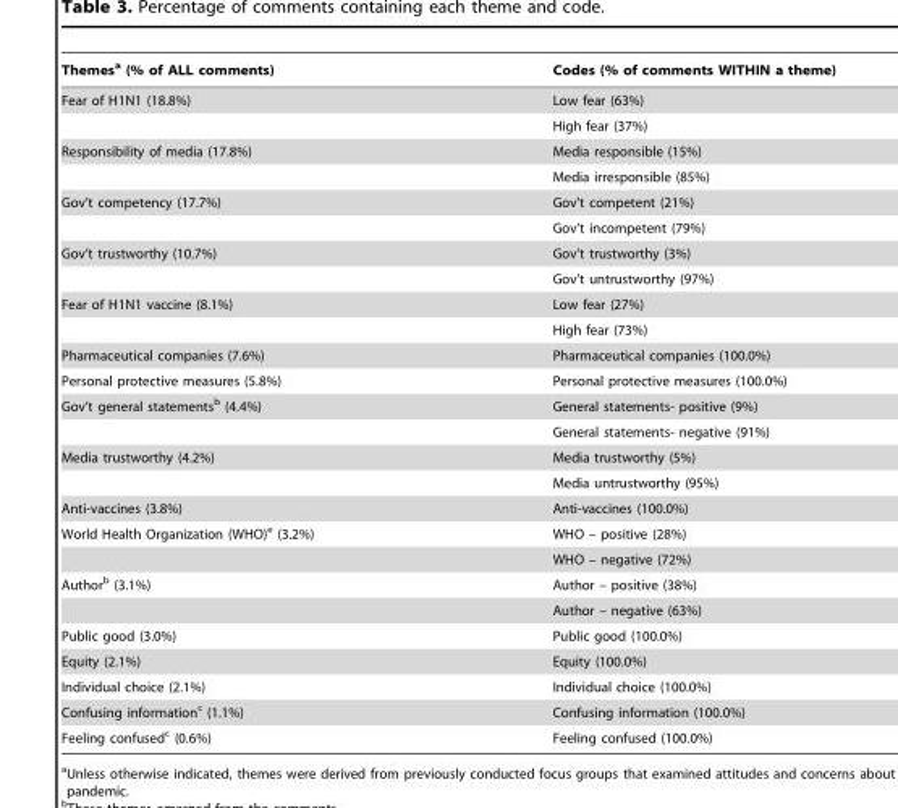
<table><thead><tr><td>Themes<sup>a</sup> (% of ALL comments)</td><td>Codes (% of comments WITHIN a theme)</td></tr></thead><tbody><tr><td rowspan="2">Fear of H1N1 (18.8%)</td><td>Low fear (63%)</td></tr><tr><td>High fear (37%)</td></tr><tr><td rowspan="2">Responsibility of media (17.8%)</td><td>Media responsible (15%)</td></tr><tr><td>Media irresponsible (85%)</td></tr><tr><td rowspan="2">Gov’t competency (17.7%)</td><td>Gov’t competent (21%)</td></tr><tr><td>Gov’t incompetent (79%)</td></tr><tr><td rowspan="2">Gov’t trustworthy (10.7%)</td><td>Gov’t trustworthy (3%)</td></tr><tr><td>Gov’t untrustworthy (97%)</td></tr><tr><td rowspan="2">Fear of H1N1 vaccine (8.1%)</td><td>Low fear (27%)</td></tr><tr><td>High fear (73%)</td></tr><tr><td>Pharmaceutical companies (7.6%)</td><td>Pharmaceutical companies (100.0%)</td></tr><tr><td>Personal protective measures (5.8%)</td><td>Personal protective measures (100.0%)</td></tr><tr><td rowspan="2">Gov’t general statements<sup>b</sup> (4.4%)</td><td>General statements- positive (9%)</td></tr><tr><td>General statements- negative (91%)</td></tr><tr><td rowspan="2">Media trustworthy (4.2%)</td><td>Media trustworthy (5%)</td></tr><tr><td>Media untrustworthy (95%)</td></tr><tr><td>Anti-vaccines (3.8%)</td><td>Anti-vaccines (100.0%)</td></tr><tr><td rowspan="2">World Health Organization (WHO)<sup>e</sup> (3.2%)</td><td>WHO – positive (28%)</td></tr><tr><td>WHO – negative (72%)</td></tr><tr><td rowspan="2">Author<sup>b</sup> (3.1%)</td><td>Author – positive (38%)</td></tr><tr><td>Author – negative (63%)</td></tr><tr><td>Public good (3.0%)</td><td>Public good (100.0%)</td></tr><tr><td>Equity (2.1%)</td><td>Equity (100.0%)</td></tr><tr><td>Individual choice (2.1%)</td><td>Individual choice (100.0%)</td></tr><tr><td>Confusing information<sup>c</sup> (1.1%)</td><td>Confusing information (100.0%)</td></tr><tr><td>Feeling confused<sup>c</sup> (0.6%)</td><td>Feeling confused (100.0%)</td></tr></tbody></table>